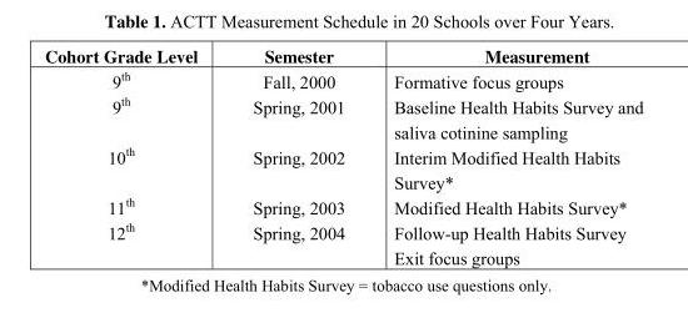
<table><thead><tr><td>Cohort Grade Level</td><td>Semester</td><td>Measurement</td></tr></thead><tbody><tr><td>9<sup>th</sup></td><td>Fall, 2000</td><td>Formative focus groups</td></tr><tr><td>9<sup>th</sup></td><td>Spring, 2001</td><td>Baseline Health Habits Survey and saliva cotinine sampling</td></tr><tr><td>10<sup>th</sup></td><td>Spring, 2002</td><td>Interim Modified Health Habits Survey*</td></tr><tr><td>11<sup>th</sup></td><td>Spring, 2003</td><td>Modified Health Habits Survey*</td></tr><tr><td>12<sup>th</sup></td><td>Spring, 2004</td><td>Follow-up Health Habits Survey Exit focus groups</td></tr></tbody></table>